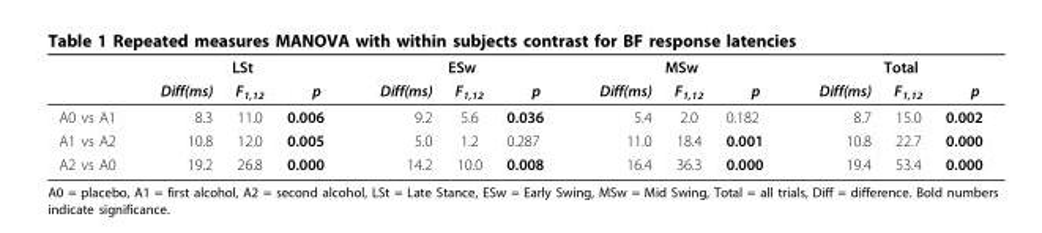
<table><thead><tr><td rowspan="2"></td><td colspan="3">LSt</td><td colspan="3">ESw</td><td colspan="3">MSw</td><td colspan="3">Total</td></tr><tr><td>Diff(ms)</td><td>F<sub>1,12</sub></td><td>p</td><td>Diff(ms)</td><td>F<sub>1,12</sub></td><td>p</td><td>Diff(ms)</td><td>F<sub>1,12</sub></td><td>p</td><td>Diff(ms)</td><td>F<sub>1,12</sub></td><td>p</td></tr></thead><tbody><tr><td>A0 vs A1</td><td>8.3</td><td>11.0</td><td>0.006</td><td>9.2</td><td>5.6</td><td>0.036</td><td>5.4</td><td>2.0</td><td>0.182</td><td>8.7</td><td>15.0</td><td>0.002</td></tr><tr><td>A1 vs A2</td><td>10.8</td><td>12.0</td><td>0.005</td><td>5.0</td><td>1.2</td><td>0.287</td><td>11.0</td><td>18.4</td><td>0.001</td><td>10.8</td><td>22.7</td><td>0.000</td></tr><tr><td>A2 vs A0</td><td>19.2</td><td>26.8</td><td>0.000</td><td>14.2</td><td>10.0</td><td>0.008</td><td>16.4</td><td>36.3</td><td>0.000</td><td>19.4</td><td>53.4</td><td>0.000</td></tr></tbody></table>